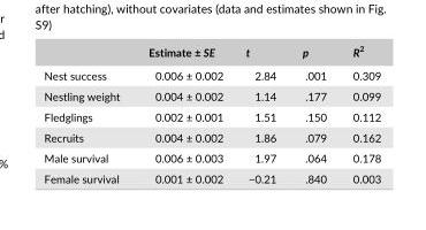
<table><thead><tr><td></td><td>Estimate ± SE</td><td>t</td><td>p</td><td>R<sup>2</sup></td></tr></thead><tbody><tr><td>Nest success</td><td>0.006 ± 0.002</td><td>2.84</td><td>.001</td><td>0.309</td></tr><tr><td>Nestling weight</td><td>0.004 ± 0.002</td><td>1.14</td><td>.177</td><td>0.099</td></tr><tr><td>Fledglings</td><td>0.002 ± 0.001</td><td>1.51</td><td>.150</td><td>0.112</td></tr><tr><td>Recruits</td><td>0.004 ± 0.002</td><td>1.86</td><td>.079</td><td>0.162</td></tr><tr><td>Male survival</td><td>0.006 ± 0.003</td><td>1.97</td><td>.064</td><td>0.178</td></tr><tr><td>Female survival</td><td>0.001 ± 0.002</td><td>−0.21</td><td>.840</td><td>0.003</td></tr></tbody></table>